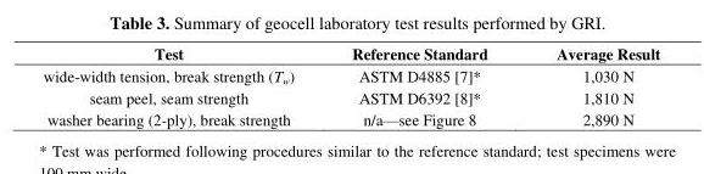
<table><thead><tr><td>Test</td><td>Reference Standard</td><td>Average Result</td></tr></thead><tbody><tr><td>wide-width tension, break strength (T<sub>w</sub>)</td><td>ASTM D4885 [7]*</td><td>1,030 N</td></tr><tr><td>seam peel, seam strength</td><td>ASTM D6392 [8]*</td><td>1,810 N</td></tr><tr><td>washer bearing (2-ply), break strength</td><td>n/a—see Figure 8</td><td>2,890 N</td></tr></tbody></table>